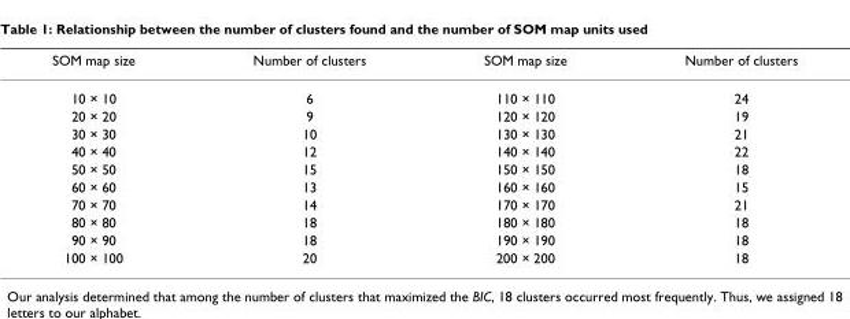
<table><thead><tr><td>SOM map size</td><td>Number of clusters</td><td>SOM map size</td><td>Number of clusters</td></tr></thead><tbody><tr><td>10 × 10</td><td>6</td><td>110 × 110</td><td>24</td></tr><tr><td>20 × 20</td><td>9</td><td>120 × 120</td><td>19</td></tr><tr><td>30 × 30</td><td>10</td><td>130 × 130</td><td>21</td></tr><tr><td>40 × 40</td><td>12</td><td>140 × 140</td><td>22</td></tr><tr><td>50 × 50</td><td>15</td><td>150 × 150</td><td>18</td></tr><tr><td>60 × 60</td><td>13</td><td>160 × 160</td><td>15</td></tr><tr><td>70 × 70</td><td>14</td><td>170 × 170</td><td>21</td></tr><tr><td>80 × 80</td><td>18</td><td>180 × 180</td><td>18</td></tr><tr><td>90 × 90</td><td>18</td><td>190 × 190</td><td>18</td></tr><tr><td>100 × 100</td><td>20</td><td>200 × 200</td><td>18</td></tr></tbody></table>